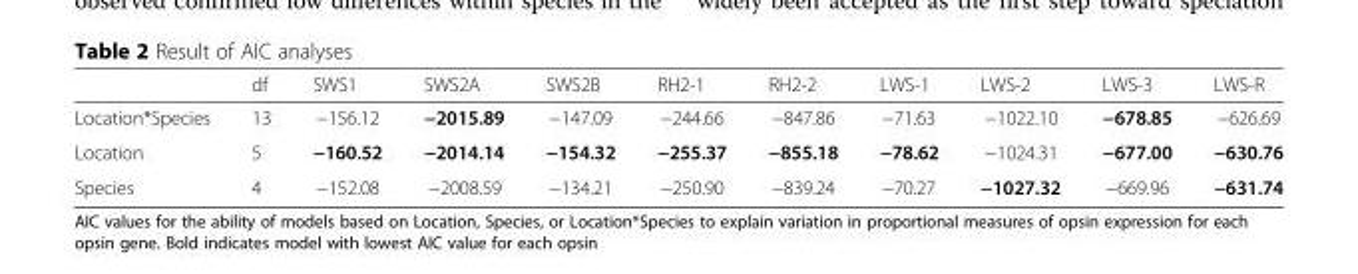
<table><thead><tr><td></td><td>df</td><td>SWS1</td><td>SWS2A</td><td>SWS2B</td><td>RH2-1</td><td>RH2-2</td><td>LWS-1</td><td>LWS-2</td><td>LWS-3</td><td>LWS-R</td></tr></thead><tbody><tr><td>Location*Species</td><td>13</td><td>−156.12</td><td>−2015.89</td><td>−147.09</td><td>−244.66</td><td>−847.86</td><td>−71.63</td><td>−1022.10</td><td>−678.85</td><td>−626.69</td></tr><tr><td>Location</td><td>5</td><td>−160.52</td><td>−2014.14</td><td>−154.32</td><td>−255.37</td><td>−855.18</td><td>−78.62</td><td>−1024.31</td><td>−677.00</td><td>−630.76</td></tr><tr><td>Species</td><td>4</td><td>−152.08</td><td>−2008.59</td><td>−134.21</td><td>−250.90</td><td>−839.24</td><td>−70.27</td><td>−1027.32</td><td>−669.96</td><td>−631.74</td></tr></tbody></table>